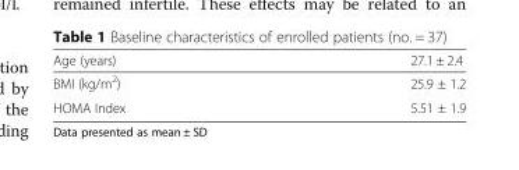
<table><thead><tr><td>Age (years)</td><td>27.1 ± 2.4</td></tr></thead><tbody><tr><td>BMI (kg/m<sup>2</sup>)</td><td>25.9 ± 1.2</td></tr><tr><td>HOMA Index</td><td>5.51 ± 1.9</td></tr></tbody></table>